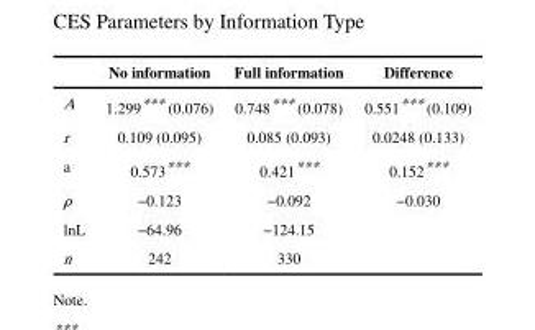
<table><thead><tr><td></td><td>No information</td><td>Full information</td><td>Difference</td></tr></thead><tbody><tr><td>A</td><td>1.299*** (0.076)</td><td>0.748*** (0.078)</td><td>0.551*** (0.109)</td></tr><tr><td>r</td><td>0.109 (0.095)</td><td>0.085 (0.093)</td><td>0.0248 (0.133)</td></tr><tr><td>a</td><td>0.573***</td><td>0.421***</td><td>0.152***</td></tr><tr><td>ρ</td><td>−0.123</td><td>−0.092</td><td>−0.030</td></tr><tr><td>lnL</td><td>−64.96</td><td>−124.15</td><td></td></tr><tr><td>n</td><td>242</td><td>330</td><td></td></tr></tbody></table>